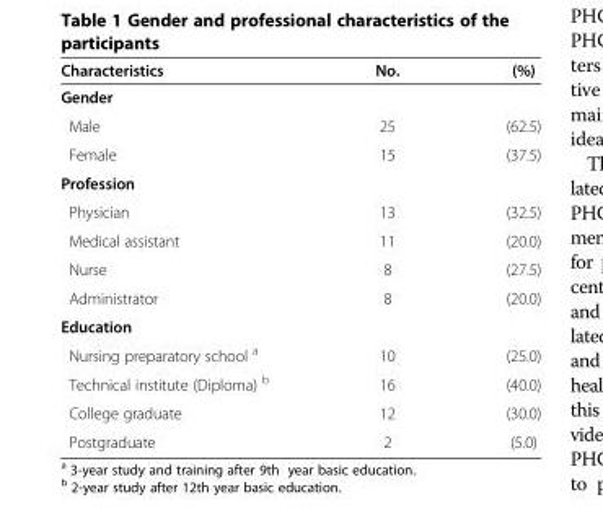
<table><thead><tr><td>Characteristics</td><td>No.</td><td>(%)</td></tr></thead><tbody><tr><td colspan="3">Gender</td></tr><tr><td>Male</td><td>25</td><td>(62.5)</td></tr><tr><td>Female</td><td>15</td><td>(37.5)</td></tr><tr><td colspan="3">Profession</td></tr><tr><td>Physician</td><td>13</td><td>(32.5)</td></tr><tr><td>Medical assistant</td><td>11</td><td>(20.0)</td></tr><tr><td>Nurse</td><td>8</td><td>(27.5)</td></tr><tr><td>Administrator</td><td>8</td><td>(20.0)</td></tr><tr><td colspan="3">Education</td></tr><tr><td>Nursing preparatory school <sup>a</sup></td><td>10</td><td>(25.0)</td></tr><tr><td>Technical institute (Diploma) <sup>b</sup></td><td>16</td><td>(40.0)</td></tr><tr><td>College graduate</td><td>12</td><td>(30.0)</td></tr><tr><td>Postgraduate</td><td>2</td><td>(5.0)</td></tr></tbody></table>